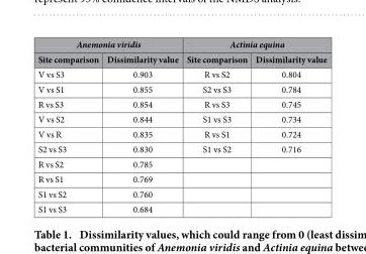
<table><thead><tr><td colspan="2">Anemonia viridis</td><td colspan="2">Actinia equina</td></tr><tr><td>Site comparison</td><td>Dissimilarity value</td><td>Site comparison</td><td>Dissimilarity value</td></tr></thead><tbody><tr><td>V vs S3</td><td>0.903</td><td>R vs S2</td><td>0.804</td></tr><tr><td>V vs S1</td><td>0.855</td><td>S2 vs S3</td><td>0.784</td></tr><tr><td>R vs S3</td><td>0.854</td><td>R vs S3</td><td>0.745</td></tr><tr><td>V vs S2</td><td>0.844</td><td>S1 vs S3</td><td>0.734</td></tr><tr><td>V vs R</td><td>0.835</td><td>R vs S1</td><td>0.724</td></tr><tr><td>S2 vs S3</td><td>0.830</td><td>S1 vs S2</td><td>0.716</td></tr><tr><td>R vs S2</td><td>0.785</td><td></td><td></td></tr><tr><td>R vs S1</td><td>0.769</td><td></td><td></td></tr><tr><td>S1 vs S2</td><td>0.760</td><td></td><td></td></tr><tr><td>S1 vs S3</td><td>0.684</td><td></td><td></td></tr></tbody></table>